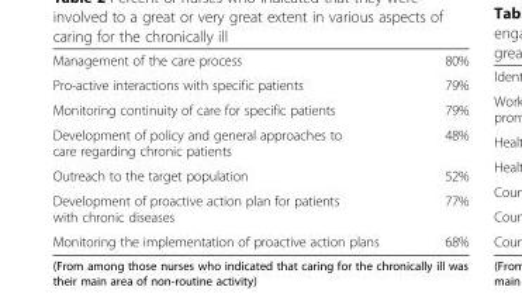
<table><tbody><tr><td>Management of the care process</td><td>80%</td></tr><tr><td>Pro-active interactions with specific patients</td><td>79%</td></tr><tr><td>Monitoring continuity of care for specific patients</td><td>79%</td></tr><tr><td>Development of policy and general approaches to care regarding chronic patients</td><td>48%</td></tr><tr><td>Outreach to the target population</td><td>52%</td></tr><tr><td>Development of proactive action plan for patients with chronic diseases</td><td>77%</td></tr><tr><td>Monitoring the implementation of proactive action plans</td><td>68%</td></tr></tbody></table>